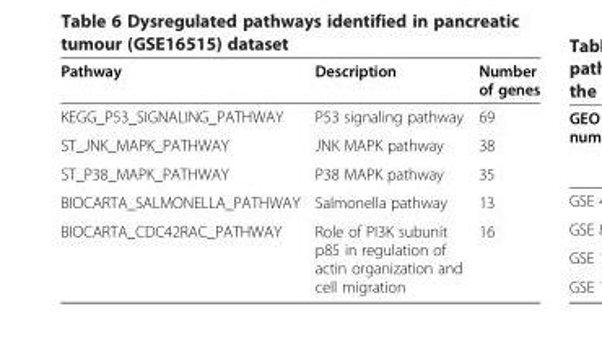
<table><thead><tr><td>Pathway</td><td>Description</td><td>Number of genes</td></tr></thead><tbody><tr><td>KEGG_P53_SIGNALING_PATHWAY</td><td>P53 signaling pathway</td><td>69</td></tr><tr><td>ST_JNK_MAPK_PATHWAY</td><td>JNK MAPK pathway</td><td>38</td></tr><tr><td>ST_P38_MAPK_PATHWAY</td><td>P38 MAPK pathway</td><td>35</td></tr><tr><td>BIOCARTA_SALMONELLA_PATHWAY</td><td>Salmonella pathway</td><td>13</td></tr><tr><td>BIOCARTA_CDC42RAC_PATHWAY</td><td>Role of PI3K subunit p85 in regulation of actin organization and cell migration</td><td>16</td></tr></tbody></table>